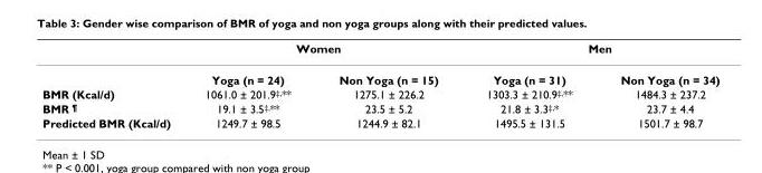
<table><thead><tr><td rowspan="2"></td><td colspan="2">Women</td><td colspan="2">Men</td></tr><tr><td>Yoga (n = 24)</td><td>Non Yoga (n = 15)</td><td>Yoga (n = 31)</td><td>Non Yoga (n = 34)</td></tr></thead><tbody><tr><td>BMR (Kcal/d)</td><td>1061.0 ± 201.9<sup>‡,</sup>**</td><td>1275.1 ± 226.2</td><td>1303.3 ± 210.9<sup>‡,</sup>**</td><td>1484.3 ± 237.2</td></tr><tr><td>BMR <sup>¶</sup></td><td>19.1 ± 3.5<sup>‡,</sup>**</td><td>23.5 ± 5.2</td><td>21.8 ± 3.3<sup>‡,</sup>*</td><td>23.7 ± 4.4</td></tr><tr><td>Predicted BMR (Kcal/d)</td><td>1249.7 ± 98.5</td><td>1244.9 ± 82.1</td><td>1495.5 ± 131.5</td><td>1501.7 ± 98.7</td></tr></tbody></table>